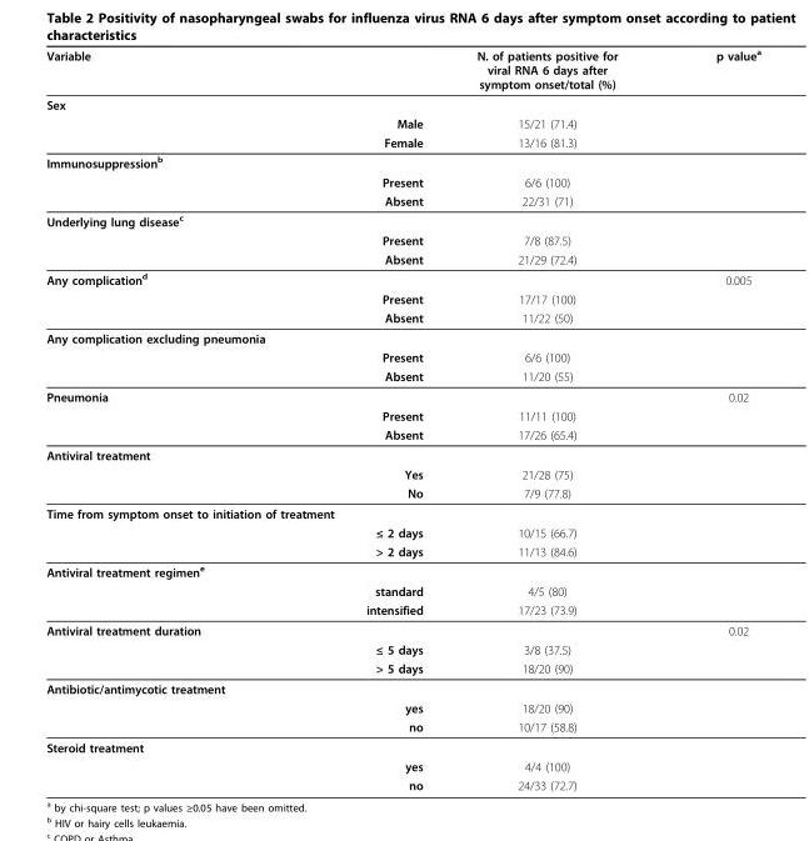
<table><thead><tr><td>Variable</td><td>N. of patients positive for viral RNA 6 days after symptom onset/total (%)</td><td>p value<sup>a</sup></td></tr></thead><tbody><tr><td colspan="3">Sex</td></tr><tr><td>Male</td><td>15/21 (71.4)</td><td></td></tr><tr><td>Female</td><td>13/16 (81.3)</td><td></td></tr><tr><td colspan="3">Immunosuppression<sup>b</sup></td></tr><tr><td>Present</td><td>6/6 (100)</td><td></td></tr><tr><td>Absent</td><td>22/31 (71)</td><td></td></tr><tr><td colspan="3">Underlying lung disease<sup>c</sup></td></tr><tr><td>Present</td><td>7/8 (87.5)</td><td></td></tr><tr><td>Absent</td><td>21/29 (72.4)</td><td></td></tr><tr><td>Any complication<sup>d</sup></td><td></td><td>0.005</td></tr><tr><td>Present</td><td>17/17 (100)</td><td></td></tr><tr><td>Absent</td><td>11/22 (50)</td><td></td></tr><tr><td colspan="3">Any complication excluding pneumonia</td></tr><tr><td>Present</td><td>6/6 (100)</td><td></td></tr><tr><td>Absent</td><td>11/20 (55)</td><td></td></tr><tr><td>Pneumonia</td><td></td><td>0.02</td></tr><tr><td>Present</td><td>11/11 (100)</td><td></td></tr><tr><td>Absent</td><td>17/26 (65.4)</td><td></td></tr><tr><td colspan="3">Antiviral treatment</td></tr><tr><td>Yes</td><td>21/28 (75)</td><td></td></tr><tr><td>No</td><td>7/9 (77.8)</td><td></td></tr><tr><td colspan="3">Time from symptom onset to initiation of treatment</td></tr><tr><td>≤ 2 days</td><td>10/15 (66.7)</td><td></td></tr><tr><td>&gt; 2 days</td><td>11/13 (84.6)</td><td></td></tr><tr><td colspan="3">Antiviral treatment regimen<sup>e</sup></td></tr><tr><td>standard</td><td>4/5 (80)</td><td></td></tr><tr><td>intensified</td><td>17/23 (73.9)</td><td></td></tr><tr><td>Antiviral treatment duration</td><td></td><td>0.02</td></tr><tr><td>≤ 5 days</td><td>3/8 (37.5)</td><td></td></tr><tr><td>&gt; 5 days</td><td>18/20 (90)</td><td></td></tr><tr><td colspan="3">Antibiotic/antimycotic treatment</td></tr><tr><td>yes</td><td>18/20 (90)</td><td></td></tr><tr><td>no</td><td>10/17 (58.8)</td><td></td></tr><tr><td colspan="3">Steroid treatment</td></tr><tr><td>yes</td><td>4/4 (100)</td><td></td></tr><tr><td>no</td><td>24/33 (72.7)</td><td></td></tr></tbody></table>